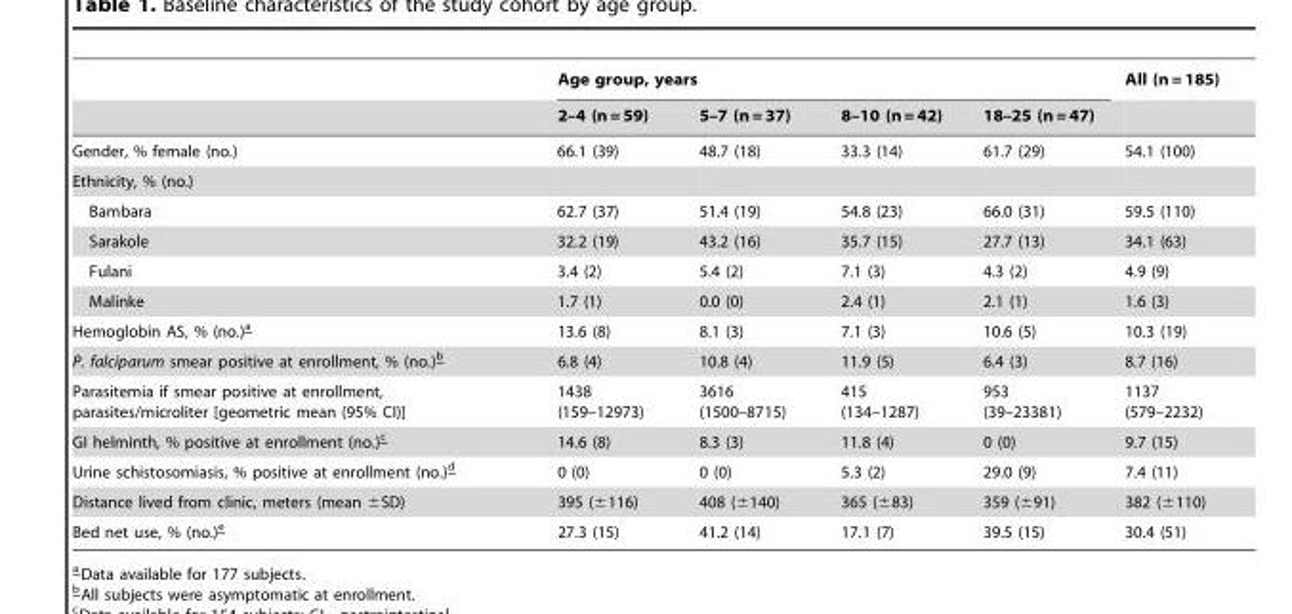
<table><thead><tr><td rowspan="2"></td><td colspan="4">Age group, years</td><td rowspan="2">All (n = 185)</td></tr><tr><td>2–4 (n = 59)</td><td>5–7 (n = 37)</td><td>8–10 (n = 42)</td><td>18–25 (n = 47)</td></tr></thead><tbody><tr><td>Gender, % female (no.)</td><td>66.1 (39)</td><td>48.7 (18)</td><td>33.3 (14)</td><td>61.7 (29)</td><td>54.1 (100)</td></tr><tr><td colspan="6">Ethnicity, % (no.)</td></tr><tr><td>Bambara</td><td>62.7 (37)</td><td>51.4 (19)</td><td>54.8 (23)</td><td>66.0 (31)</td><td>59.5 (110)</td></tr><tr><td>Sarakole</td><td>32.2 (19)</td><td>43.2 (16)</td><td>35.7 (15)</td><td>27.7 (13)</td><td>34.1 (63)</td></tr><tr><td>Fulani</td><td>3.4 (2)</td><td>5.4 (2)</td><td>7.1 (3)</td><td>4.3 (2)</td><td>4.9 (9)</td></tr><tr><td>Malinke</td><td>1.7 (1)</td><td>0.0 (0)</td><td>2.4 (1)</td><td>2.1 (1)</td><td>1.6 (3)</td></tr><tr><td>Hemoglobin AS, % (no.)a–</td><td>13.6 (8)</td><td>8.1 (3)</td><td>7.1 (3)</td><td>10.6 (5)</td><td>10.3 (19)</td></tr><tr><td>P. falciparum smear positive at enrollment, % (no.)b–</td><td>6.8 (4)</td><td>10.8 (4)</td><td>11.9 (5)</td><td>6.4 (3)</td><td>8.7 (16)</td></tr><tr><td>Parasitemia if smear positive at enrollment, parasites/microliter [geometric mean (95% CI)]</td><td>1438 (159–12973)</td><td>3616 (1500–8715)</td><td>415 (134–1287)</td><td>953 (39–23381)</td><td>1137 (579–2232)</td></tr><tr><td>GI helminth, % positive at enrollment (no.)c–</td><td>14.6 (8)</td><td>8.3 (3)</td><td>11.8 (4)</td><td>0 (0)</td><td>9.7 (15)</td></tr><tr><td>Urine schistosomiasis, % positive at enrollment (no.)d–</td><td>0 (0)</td><td>0 (0)</td><td>5.3 (2)</td><td>29.0 (9)</td><td>7.4 (11)</td></tr><tr><td>Distance lived from clinic, meters (mean ±SD)</td><td>395 (±116)</td><td>408 (±140)</td><td>365 (±83)</td><td>359 (±91)</td><td>382 (±110)</td></tr><tr><td>Bed net use, % (no.)e–</td><td>27.3 (15)</td><td>41.2 (14)</td><td>17.1 (7)</td><td>39.5 (15)</td><td>30.4 (51)</td></tr></tbody></table>